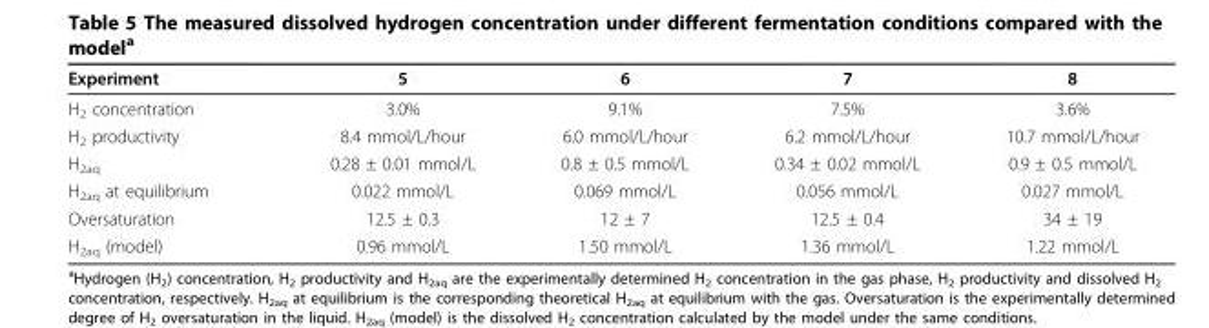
<table><thead><tr><td>Experiment</td><td>5</td><td>6</td><td>7</td><td>8</td></tr></thead><tbody><tr><td>H<sub>2</sub> concentration</td><td>3.0%</td><td>9.1%</td><td>7.5%</td><td>3.6%</td></tr><tr><td>H<sub>2</sub> productivity</td><td>8.4 mmol/L/hour</td><td>6.0 mmol/L/hour</td><td>6.2 mmol/L/hour</td><td>10.7 mmol/L/hour</td></tr><tr><td>H<sub>2aq</sub></td><td>0.28 ± 0.01 mmol/L</td><td>0.8 ± 0.5 mmol/L</td><td>0.34 ± 0.02 mmol/L</td><td>0.9 ± 0.5 mmol/L</td></tr><tr><td>H<sub>2aq</sub> at equilibrium</td><td>0.022 mmol/L</td><td>0.069 mmol/L</td><td>0.056 mmol/L</td><td>0.027 mmol/L</td></tr><tr><td>Oversaturation</td><td>12.5 ± 0.3</td><td>12 ± 7</td><td>12.5 ± 0.4</td><td>34 ± 19</td></tr><tr><td>H<sub>2aq</sub> (model)</td><td>0.96 mmol/L</td><td>1.50 mmol/L</td><td>1.36 mmol/L</td><td>1.22 mmol/L</td></tr></tbody></table>